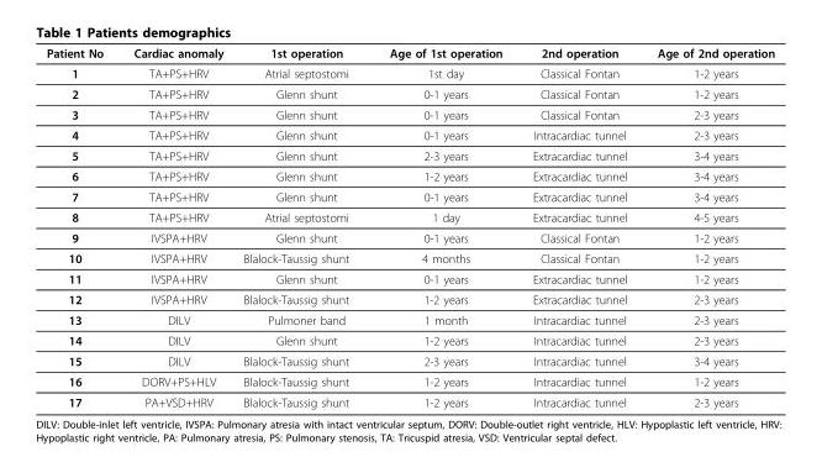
<table><thead><tr><td>Patient No</td><td>Cardiac anomaly</td><td>1st operation</td><td>Age of 1st operation</td><td>2nd operation</td><td>Age of 2nd operation</td></tr></thead><tbody><tr><td>1</td><td>TA+PS+HRV</td><td>Atrial septostomi</td><td>1st day</td><td>Classical Fontan</td><td>1-2 years</td></tr><tr><td>2</td><td>TA+PS+HRV</td><td>Glenn shunt</td><td>0-1 years</td><td>Classical Fontan</td><td>1-2 years</td></tr><tr><td>3</td><td>TA+PS+HRV</td><td>Glenn shunt</td><td>0-1 years</td><td>Classical Fontan</td><td>2-3 years</td></tr><tr><td>4</td><td>TA+PS+HRV</td><td>Glenn shunt</td><td>0-1 years</td><td>Intracardiac tunnel</td><td>2-3 years</td></tr><tr><td>5</td><td>TA+PS+HRV</td><td>Glenn shunt</td><td>2-3 years</td><td>Extracardiac tunnel</td><td>3-4 years</td></tr><tr><td>6</td><td>TA+PS+HRV</td><td>Glenn shunt</td><td>1-2 years</td><td>Extracardiac tunnel</td><td>3-4 years</td></tr><tr><td>7</td><td>TA+PS+HRV</td><td>Glenn shunt</td><td>0-1 years</td><td>Extracardiac tunnel</td><td>3-4 years</td></tr><tr><td>8</td><td>TA+PS+HRV</td><td>Atrial septostomi</td><td>1 day</td><td>Extracardiac tunnel</td><td>4-5 years</td></tr><tr><td>9</td><td>IVSPA+HRV</td><td>Glenn shunt</td><td>0-1 years</td><td>Classical Fontan</td><td>1-2 years</td></tr><tr><td>10</td><td>IVSPA+HRV</td><td>Blalock-Taussig shunt</td><td>4 months</td><td>Classical Fontan</td><td>1-2 years</td></tr><tr><td>11</td><td>IVSPA+HRV</td><td>Glenn shunt</td><td>0-1 years</td><td>Extracardiac tunnel</td><td>1-2 years</td></tr><tr><td>12</td><td>IVSPA+HRV</td><td>Blalock-Taussig shunt</td><td>1-2 years</td><td>Extracardiac tunnel</td><td>2-3 years</td></tr><tr><td>13</td><td>DILV</td><td>Pulmoner band</td><td>1 month</td><td>Intracardiac tunnel</td><td>2-3 years</td></tr><tr><td>14</td><td>DILV</td><td>Glenn shunt</td><td>1-2 years</td><td>Intracardiac tunnel</td><td>2-3 years</td></tr><tr><td>15</td><td>DILV</td><td>Blalock-Taussig shunt</td><td>2-3 years</td><td>Intracardiac tunnel</td><td>3-4 years</td></tr><tr><td>16</td><td>DORV+PS+HLV</td><td>Blalock-Taussig shunt</td><td>1-2 years</td><td>Intracardiac tunnel</td><td>1-2 years</td></tr><tr><td>17</td><td>PA+VSD+HRV</td><td>Blalock-Taussig shunt</td><td>1-2 years</td><td>Intracardiac tunnel</td><td>2-3 years</td></tr></tbody></table>